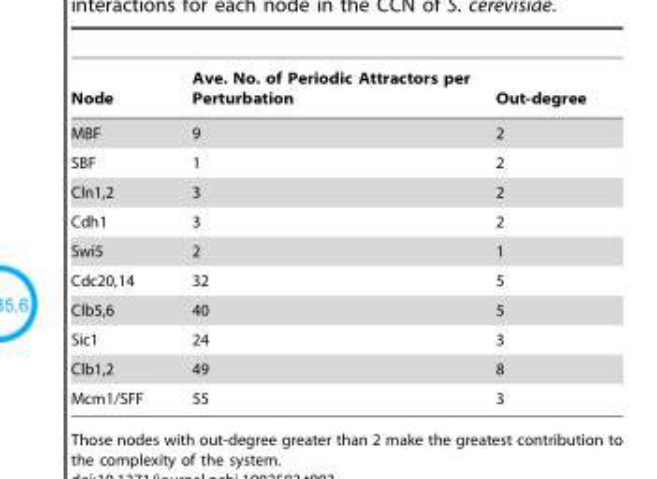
<table><thead><tr><td>Node</td><td>Ave. No. of Periodic Attractors per Perturbation</td><td>Out-degree</td></tr></thead><tbody><tr><td>MBF</td><td>9</td><td>2</td></tr><tr><td>SBF</td><td>1</td><td>2</td></tr><tr><td>Cln1,2</td><td>3</td><td>2</td></tr><tr><td>Cdh1</td><td>3</td><td>2</td></tr><tr><td>Swi5</td><td>2</td><td>1</td></tr><tr><td>Cdc20,14</td><td>32</td><td>5</td></tr><tr><td>Clb5,6</td><td>40</td><td>5</td></tr><tr><td>Sic1</td><td>24</td><td>3</td></tr><tr><td>Clb1,2</td><td>49</td><td>8</td></tr><tr><td>Mcm1/SFF</td><td>55</td><td>3</td></tr></tbody></table>